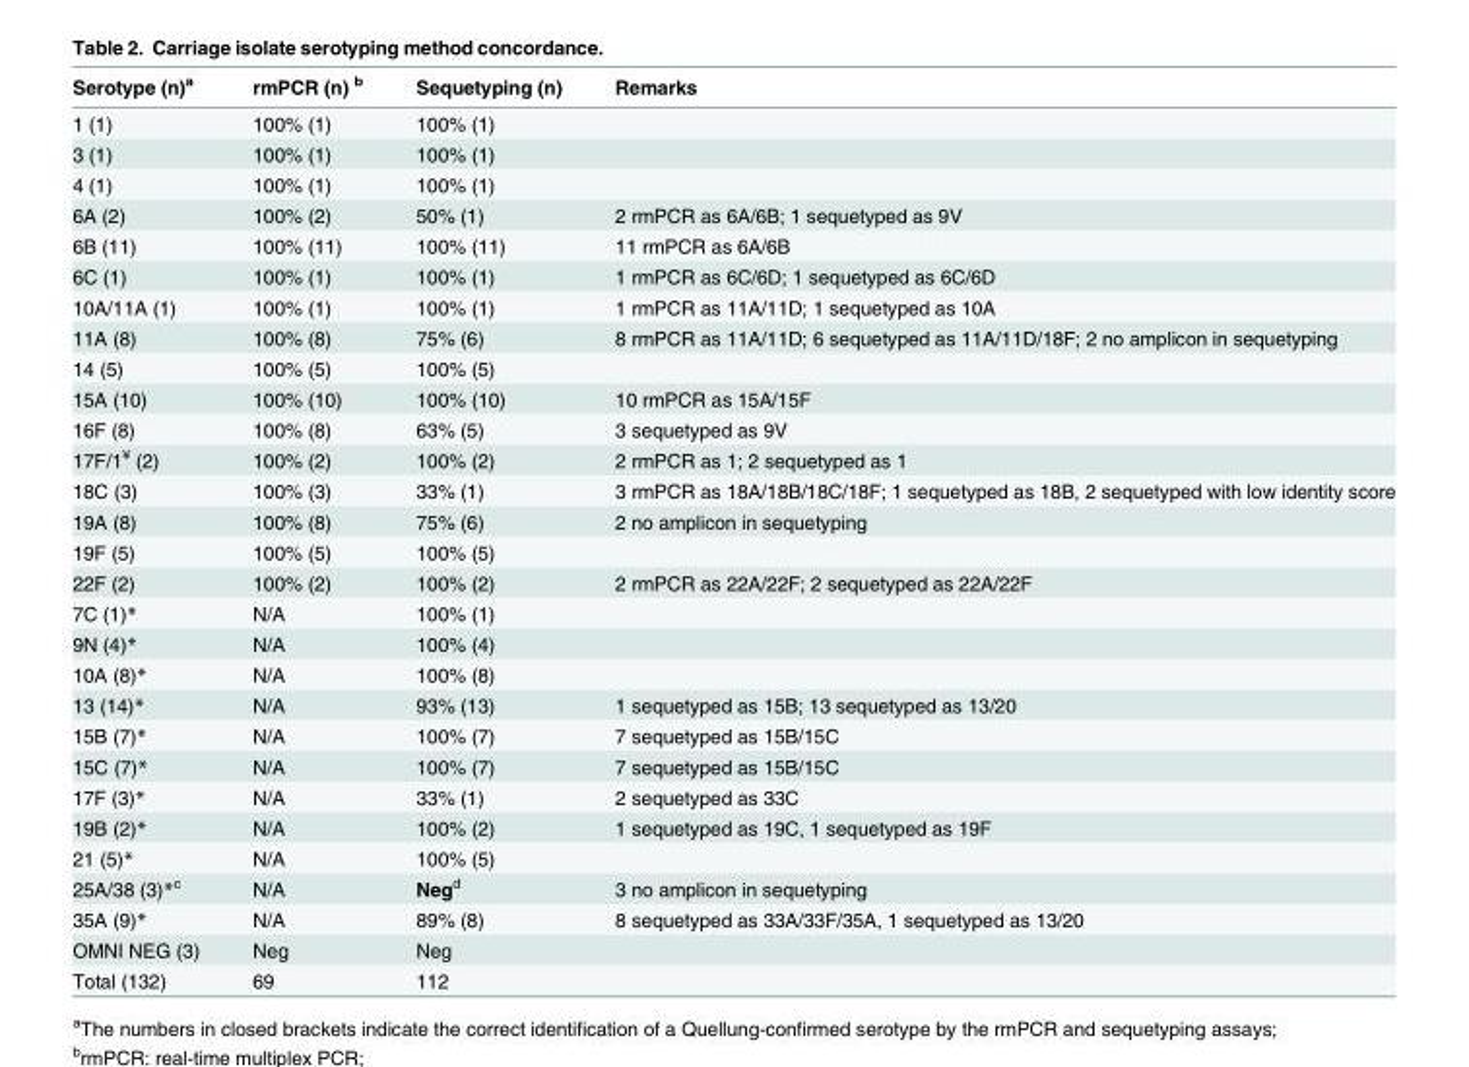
<table><thead><tr><td>Serotype (n)<sup>a</sup></td><td>rmPCR (n) <sup>b</sup></td><td>Sequetyping (n)</td><td>Remarks</td></tr></thead><tbody><tr><td>1 (1)</td><td>100% (1)</td><td>100% (1)</td><td></td></tr><tr><td>3 (1)</td><td>100% (1)</td><td>100% (1)</td><td></td></tr><tr><td>4 (1)</td><td>100% (1)</td><td>100% (1)</td><td></td></tr><tr><td>6A (2)</td><td>100% (2)</td><td>50% (1)</td><td>2 rmPCR as 6A/6B; 1 sequetyped as 9V</td></tr><tr><td>6B (11)</td><td>100% (11)</td><td>100% (11)</td><td>11 rmPCR as 6A/6B</td></tr><tr><td>6C (1)</td><td>100% (1)</td><td>100% (1)</td><td>1 rmPCR as 6C/6D; 1 sequetyped as 6C/6D</td></tr><tr><td>10A/11A (1)</td><td>100% (1)</td><td>100% (1)</td><td>1 rmPCR as 11A/11D; 1 sequetyped as 10A</td></tr><tr><td>11A (8)</td><td>100% (8)</td><td>75% (6)</td><td>8 rmPCR as 11A/11D; 6 sequetyped as 11A/11D/18F; 2 no amplicon in sequetyping</td></tr><tr><td>14 (5)</td><td>100% (5)</td><td>100% (5)</td><td></td></tr><tr><td>15A (10)</td><td>100% (10)</td><td>100% (10)</td><td>10 rmPCR as 15A/15F</td></tr><tr><td>16F (8)</td><td>100% (8)</td><td>63% (5)</td><td>3 sequetyped as 9V</td></tr><tr><td>17F/1<sup>¥</sup> (2)</td><td>100% (2)</td><td>100% (2)</td><td>2 rmPCR as 1; 2 sequetyped as 1</td></tr><tr><td>18C (3)</td><td>100% (3)</td><td>33% (1)</td><td>3 rmPCR as 18A/18B/18C/18F; 1 sequetyped as 18B, 2 sequetyped with low identity score</td></tr><tr><td>19A (8)</td><td>100% (8)</td><td>75% (6)</td><td>2 no amplicon in sequetyping</td></tr><tr><td>19F (5)</td><td>100% (5)</td><td>100% (5)</td><td></td></tr><tr><td>22F (2)</td><td>100% (2)</td><td>100% (2)</td><td>2 rmPCR as 22A/22F; 2 sequetyped as 22A/22F</td></tr><tr><td>7C (1)*</td><td>N/A</td><td>100% (1)</td><td></td></tr><tr><td>9N (4)*</td><td>N/A</td><td>100% (4)</td><td></td></tr><tr><td>10A (8)*</td><td>N/A</td><td>100% (8)</td><td></td></tr><tr><td>13 (14)*</td><td>N/A</td><td>93% (13)</td><td>1 sequetyped as 15B; 13 sequetyped as 13/20</td></tr><tr><td>15B (7)*</td><td>N/A</td><td>100% (7)</td><td>7 sequetyped as 15B/15C</td></tr><tr><td>15C (7)*</td><td>N/A</td><td>100% (7)</td><td>7 sequetyped as 15B/15C</td></tr><tr><td>17F (3)*</td><td>N/A</td><td>33% (1)</td><td>2 sequetyped as 33C</td></tr><tr><td>19B (2)*</td><td>N/A</td><td>100% (2)</td><td>1 sequetyped as 19C, 1 sequetyped as 19F</td></tr><tr><td>21 (5)*</td><td>N/A</td><td>100% (5)</td><td></td></tr><tr><td>25A/38 (3)*<sup>c</sup></td><td>N/A</td><td>Neg<sup>d</sup></td><td>3 no amplicon in sequetyping</td></tr><tr><td>35A (9)*</td><td>N/A</td><td>89% (8)</td><td>8 sequetyped as 33A/33F/35A, 1 sequetyped as 13/20</td></tr><tr><td>OMNI NEG (3)</td><td>Neg</td><td>Neg</td><td></td></tr><tr><td>Total (132)</td><td>69</td><td>112</td><td></td></tr></tbody></table>